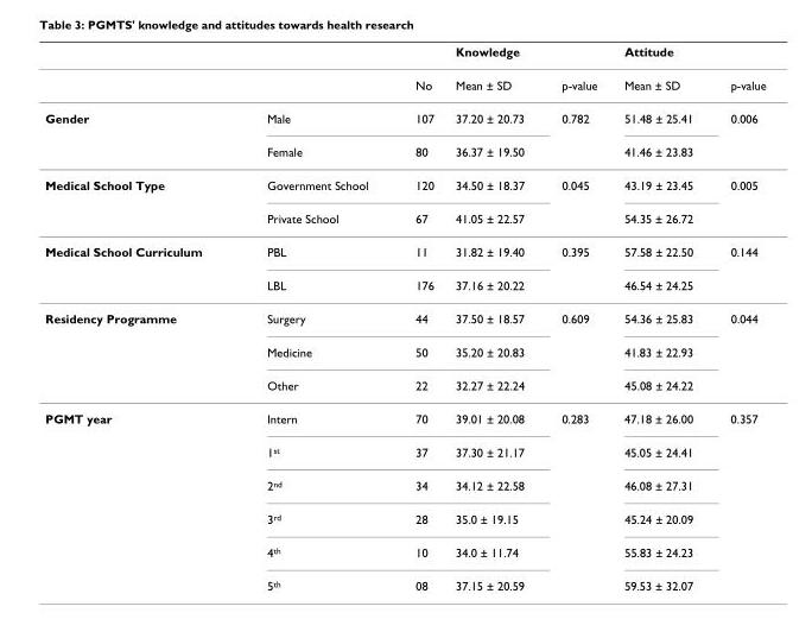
<table><thead><tr><td rowspan="2"></td><td rowspan="2"></td><td rowspan="2">No</td><td colspan="2">Knowledge</td><td colspan="2">Attitude</td></tr><tr><td>Mean ± SD</td><td>p-value</td><td>Mean ± SD</td><td>p-value</td></tr></thead><tbody><tr><td rowspan="2">Gender</td><td>Male</td><td>107</td><td>37.20 ± 20.73</td><td>0.782</td><td>51.48 ± 25.41</td><td>0.006</td></tr><tr><td>Female</td><td>80</td><td>36.37 ± 19.50</td><td></td><td>41.46 ± 23.83</td><td></td></tr><tr><td rowspan="2">Medical School Type</td><td>Government School</td><td>120</td><td>34.50 ± 18.37</td><td>0.045</td><td>43.19 ± 23.45</td><td>0.005</td></tr><tr><td>Private School</td><td>67</td><td>41.05 ± 22.57</td><td></td><td>54.35 ± 26.72</td><td></td></tr><tr><td rowspan="2">Medical School Curriculum</td><td>PBL</td><td>11</td><td>31.82 ± 19.40</td><td>0.395</td><td>57.58 ± 22.50</td><td>0.144</td></tr><tr><td>LBL</td><td>176</td><td>37.16 ± 20.22</td><td></td><td>46.54 ± 24.25</td><td></td></tr><tr><td rowspan="3">Residency Programme</td><td>Surgery</td><td>44</td><td>37.50 ± 18.57</td><td>0.609</td><td>54.36 ± 25.83</td><td>0.044</td></tr><tr><td>Medicine</td><td>50</td><td>35.20 ± 20.83</td><td></td><td>41.83 ± 22.93</td><td></td></tr><tr><td>Other</td><td>22</td><td>32.27 ± 22.24</td><td></td><td>45.08 ± 24.22</td><td></td></tr><tr><td rowspan="6">PGMT year</td><td>Intern</td><td>70</td><td>39.01 ± 20.08</td><td>0.283</td><td>47.18 ± 26.00</td><td>0.357</td></tr><tr><td>1<sup>st</sup></td><td>37</td><td>37.30 ± 21.17</td><td></td><td>45.05 ± 24.41</td><td></td></tr><tr><td>2<sup>nd</sup></td><td>34</td><td>34.12 ± 22.58</td><td></td><td>46.08 ± 27.31</td><td></td></tr><tr><td>3<sup>rd</sup></td><td>28</td><td>35.0 ± 19.15</td><td></td><td>45.24 ± 20.09</td><td></td></tr><tr><td>4<sup>th</sup></td><td>10</td><td>34.0 ± 11.74</td><td></td><td>55.83 ± 24.23</td><td></td></tr><tr><td>5<sup>th</sup></td><td>08</td><td>37.15 ± 20.59</td><td></td><td>59.53 ± 32.07</td><td></td></tr></tbody></table>